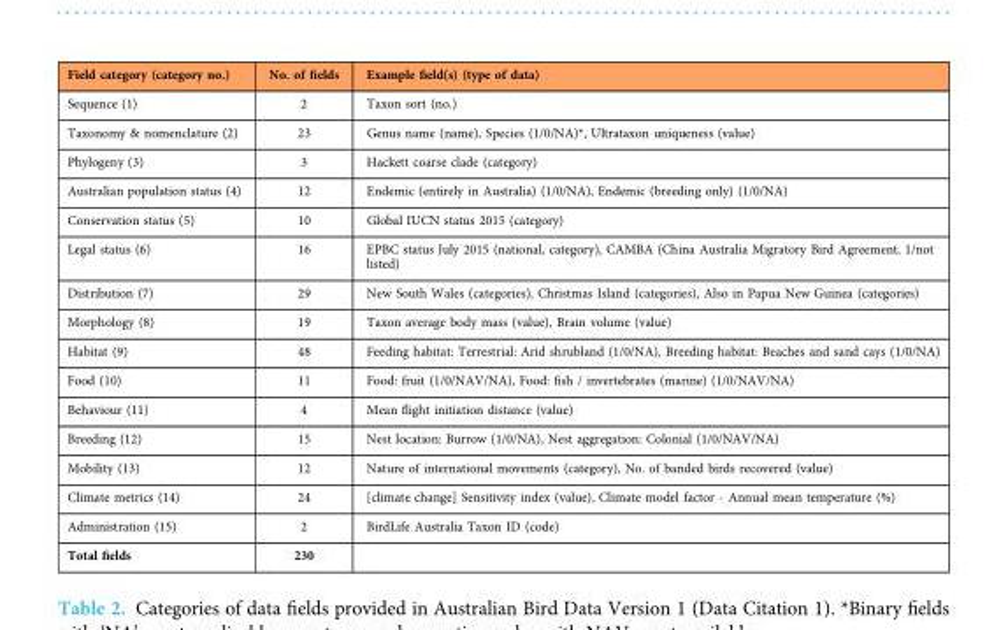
<table><thead><tr><td>Field category (category no.)</td><td>No. of fields</td><td>Example field(s) (type of data)</td></tr></thead><tbody><tr><td>Sequence (1)</td><td>2</td><td>Taxon sort (no.)</td></tr><tr><td>Taxonomy &amp; nomenclature (2)</td><td>23</td><td>Genus name (name), Species (1/0/NA)*, Ultrataxon uniqueness (value)</td></tr><tr><td>Phylogeny (3)</td><td>3</td><td>Hackett coarse clade (category)</td></tr><tr><td>Australian population status (4)</td><td>12</td><td>Endemic (entirely in Australia) (1/0/NA), Endemic (breeding only) (1/0/NA)</td></tr><tr><td>Conservation status (5)</td><td>10</td><td>Global IUCN status 2015 (category)</td></tr><tr><td>Legal status (6)</td><td>16</td><td>EPBC status July 2015 (national, category), CAMBA (China Australia Migratory Bird Agreement, 1/not listed)</td></tr><tr><td>Distribution (7)</td><td>29</td><td>New South Wales (categories), Christmas Island (categories), Also in Papua New Guinea (categories)</td></tr><tr><td>Morphology (8)</td><td>19</td><td>Taxon average body mass (value), Brain volume (value)</td></tr><tr><td>Habitat (9)</td><td>48</td><td>Feeding habitat: Terrestrial: Arid shrubland (1/0/NA), Breeding habitat: Beaches and sand cays (1/0/NA)</td></tr><tr><td>Food (10)</td><td>11</td><td>Food: fruit (1/0/NAV/NA), Food: fish / invertebrates (marine) (1/0/NAV/NA)</td></tr><tr><td>Behaviour (11)</td><td>4</td><td>Mean flight initiation distance (value)</td></tr><tr><td>Breeding (12)</td><td>15</td><td>Nest location: Burrow (1/0/NA), Nest aggregation: Colonial (1/0/NAV/NA)</td></tr><tr><td>Mobility (13)</td><td>12</td><td>Nature of international movements (category), No. of banded birds recovered (value)</td></tr><tr><td>Climate metrics (14)</td><td>24</td><td>[climate change] Sensitivity index (value), Climate model factor - Annual mean temperature (%)</td></tr><tr><td>Administration (15)</td><td>2</td><td>BirdLife Australia Taxon ID (code)</td></tr><tr><td>Total fields</td><td>230</td><td></td></tr></tbody></table>